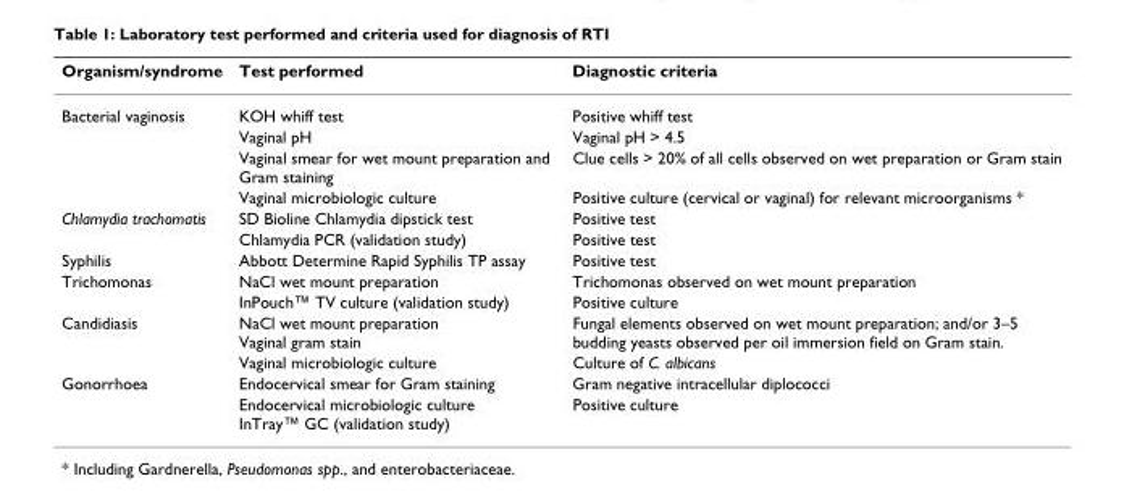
<table><thead><tr><td>Organism/syndrome</td><td>Test performed</td><td>Diagnostic criteria</td></tr></thead><tbody><tr><td rowspan="4">Bacterial vaginosis</td><td>KOH whiff test</td><td>Positive whiff test</td></tr><tr><td>Vaginal pH</td><td>Vaginal pH &gt; 4.5</td></tr><tr><td>Vaginal smear for wet mount preparation and Gram staining</td><td>Clue cells &gt; 20% of all cells observed on wet preparation or Gram stain</td></tr><tr><td>Vaginal microbiologic culture</td><td>Positive culture (cervical or vaginal) for relevant microorganisms *</td></tr><tr><td rowspan="2">Chlamydia trachomatis</td><td>SD Bioline Chlamydia dipstick test</td><td>Positive test</td></tr><tr><td>Chlamydia PCR (validation study)</td><td>Positive test</td></tr><tr><td>Syphilis</td><td>Abbott Determine Rapid Syphilis TP assay</td><td>Positive test</td></tr><tr><td rowspan="2">Trichomonas</td><td>NaCl wet mount preparation</td><td>Trichomonas observed on wet mount preparation</td></tr><tr><td>InPouch™ TV culture (validation study)</td><td>Positive culture</td></tr><tr><td rowspan="2">Candidiasis</td><td>NaCl wet mount preparation Vaginal gram stain</td><td>Fungal elements observed on wet mount preparation; and/or 3–5 budding yeasts observed per oil immersion field on Gram stain.</td></tr><tr><td>Vaginal microbiologic culture</td><td>Culture of C. albicans</td></tr><tr><td rowspan="2">Gonorrhoea</td><td>Endocervical smear for Gram staining</td><td>Gram negative intracellular diplococci</td></tr><tr><td>Endocervical microbiologic culture InTray™ GC (validation study)</td><td>Positive culture</td></tr></tbody></table>